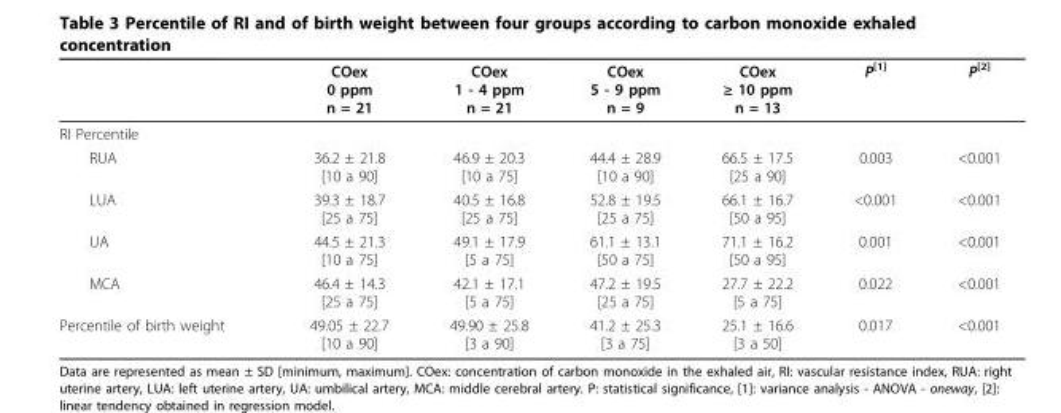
<table><thead><tr><td></td><td>COex 0 ppm n = 21</td><td>COex 1 - 4 ppm n = 21</td><td>COex 5 - 9 ppm n = 9</td><td>COex ≥ 10 ppm n = 13</td><td>P<sup>[1]</sup></td><td>P<sup>[2]</sup></td></tr></thead><tbody><tr><td colspan="7">RI Percentile</td></tr><tr><td>RUA</td><td>36.2 ± 21.8 [10 a 90]</td><td>46.9 ± 20.3 [10 a 75]</td><td>44.4 ± 28.9 [10 a 90]</td><td>66.5 ± 17.5 [25 a 90]</td><td>0.003</td><td>&lt;0.001</td></tr><tr><td>LUA</td><td>39.3 ± 18.7 [25 a 75]</td><td>40.5 ± 16.8 [25 a 75]</td><td>52.8 ± 19.5 [25 a 75]</td><td>66.1 ± 16.7 [50 a 95]</td><td>&lt;0.001</td><td>&lt;0.001</td></tr><tr><td>UA</td><td>44.5 ± 21.3 [10 a 75]</td><td>49.1 ± 17.9 [5 a 75]</td><td>61.1 ± 13.1 [50 a 75]</td><td>71.1 ± 16.2 [50 a 95]</td><td>0.001</td><td>&lt;0.001</td></tr><tr><td>MCA</td><td>46.4 ± 14.3 [25 a 75]</td><td>42.1 ± 17.1 [5 a 75]</td><td>47.2 ± 19.5 [25 a 75]</td><td>27.7 ± 22.2 [5 a 75]</td><td>0.022</td><td>&lt;0.001</td></tr><tr><td>Percentile of birth weight</td><td>49.05 ± 22.7 [10 a 90]</td><td>49.90 ± 25.8 [3 a 90]</td><td>41.2 ± 25.3 [3 a 75]</td><td>25.1 ± 16.6 [3 a 50]</td><td>0.017</td><td>&lt;0.001</td></tr></tbody></table>